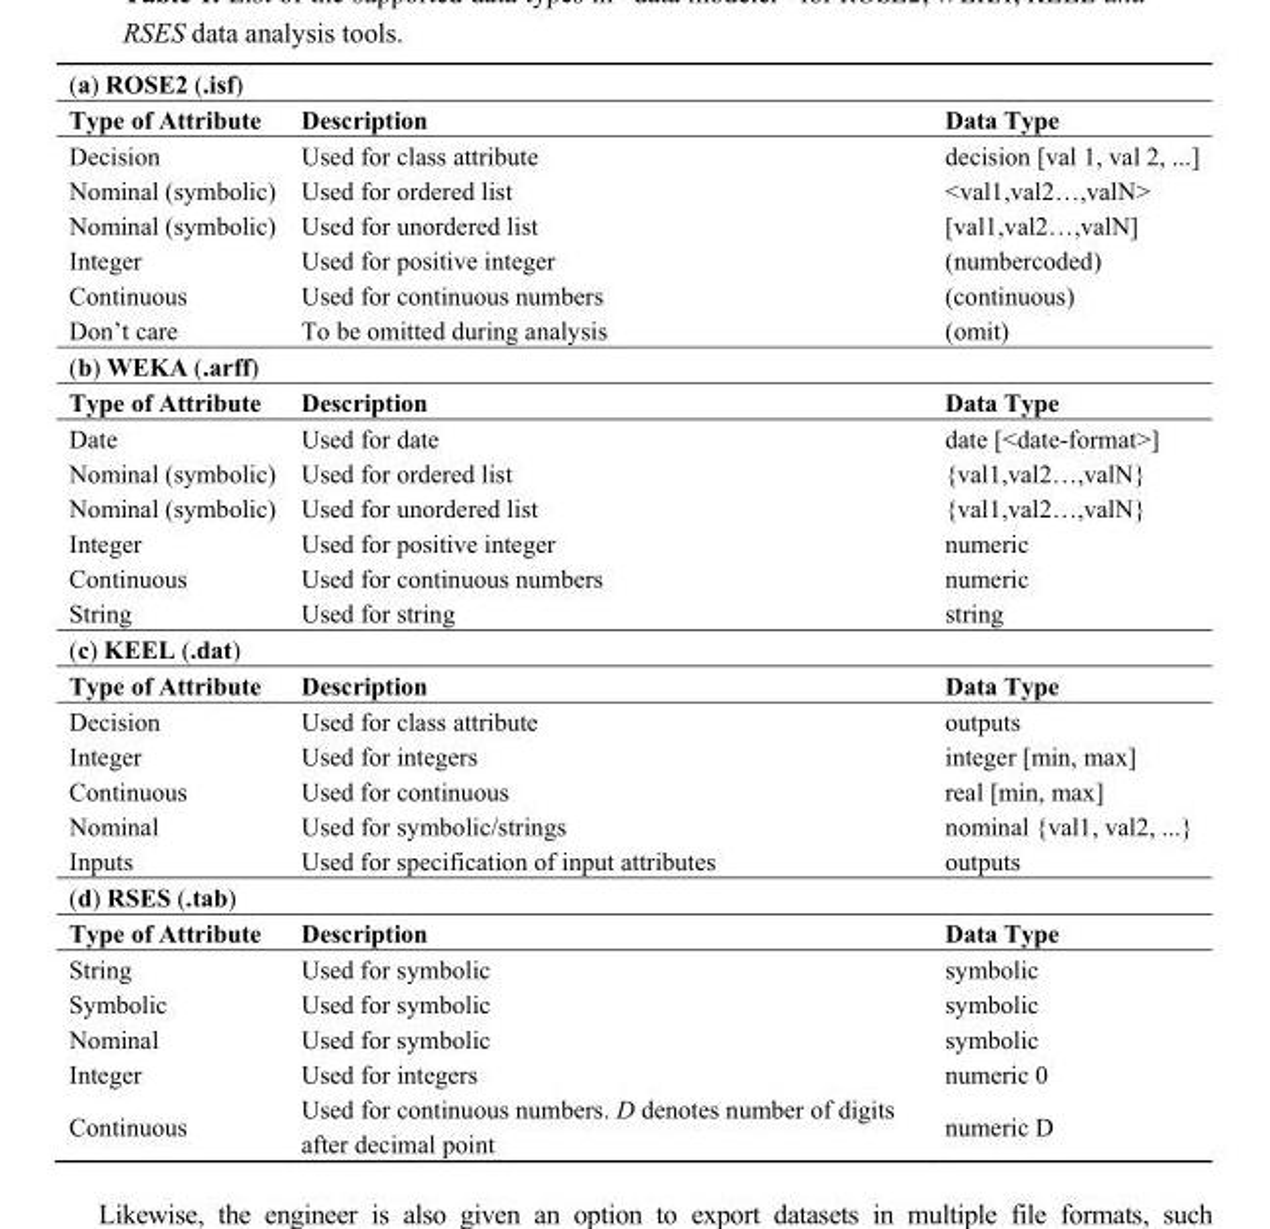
<table><tbody><tr><td colspan="3">(a) ROSE2 (.isf)</td></tr><tr><td>Type of Attribute</td><td>Description</td><td>Data Type</td></tr><tr><td>Decision</td><td>Used for class attribute</td><td>decision [val 1, val 2, ...]</td></tr><tr><td>Nominal (symbolic)</td><td>Used for ordered list</td><td>&lt;val1,val2…,valN&gt;</td></tr><tr><td>Nominal (symbolic)</td><td>Used for unordered list</td><td>[val1,val2…,valN]</td></tr><tr><td>Integer</td><td>Used for positive integer</td><td>(numbercoded)</td></tr><tr><td>Continuous</td><td>Used for continuous numbers</td><td>(continuous)</td></tr><tr><td>Donʼt care</td><td>To be omitted during analysis</td><td>(omit)</td></tr><tr><td colspan="3">(b) WEKA (.arff)</td></tr><tr><td>Type of Attribute</td><td>Description</td><td>Data Type</td></tr><tr><td>Date</td><td>Used for date</td><td>date [&lt;date-format&gt;]</td></tr><tr><td>Nominal (symbolic)</td><td>Used for ordered list</td><td>{val1,val2…,valN}</td></tr><tr><td>Nominal (symbolic)</td><td>Used for unordered list</td><td>{val1,val2…,valN}</td></tr><tr><td>Integer</td><td>Used for positive integer</td><td>numeric</td></tr><tr><td>Continuous</td><td>Used for continuous numbers</td><td>numeric</td></tr><tr><td>String</td><td>Used for string</td><td>string</td></tr><tr><td colspan="3">(c) KEEL (.dat)</td></tr><tr><td>Type of Attribute</td><td>Description</td><td>Data Type</td></tr><tr><td>Decision</td><td>Used for class attribute</td><td>outputs</td></tr><tr><td>Integer</td><td>Used for integers</td><td>integer [min, max]</td></tr><tr><td>Continuous</td><td>Used for continuous</td><td>real [min, max]</td></tr><tr><td>Nominal</td><td>Used for symbolic/strings</td><td>nominal {val1, val2, ...}</td></tr><tr><td>Inputs</td><td>Used for specification of input attributes</td><td>outputs</td></tr><tr><td colspan="3">(d) RSES (.tab)</td></tr><tr><td>Type of Attribute</td><td>Description</td><td>Data Type</td></tr><tr><td>String</td><td>Used for symbolic</td><td>symbolic</td></tr><tr><td>Symbolic</td><td>Used for symbolic</td><td>symbolic</td></tr><tr><td>Nominal</td><td>Used for symbolic</td><td>symbolic</td></tr><tr><td>Integer</td><td>Used for integers</td><td>numeric 0</td></tr><tr><td>Continuous</td><td>Used for continuous numbers. D denotes number of digits after decimal point</td><td>numeric D</td></tr></tbody></table>